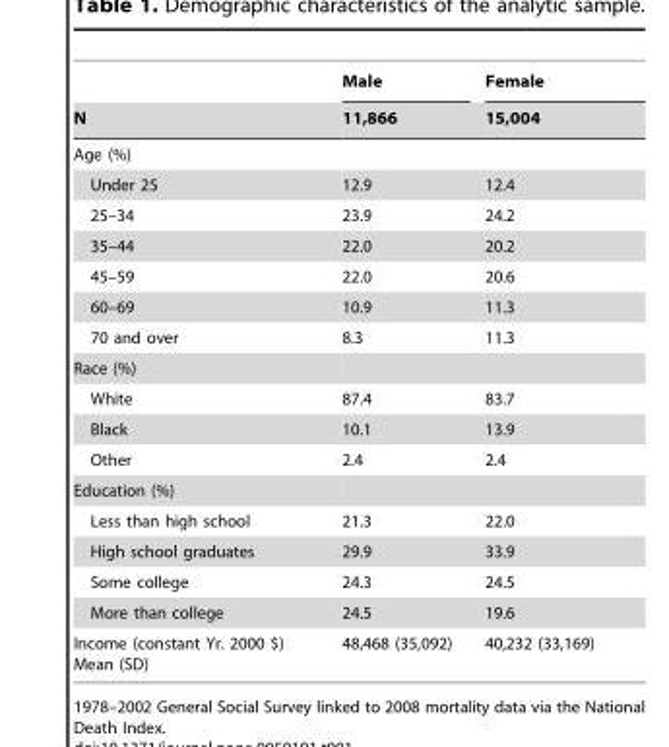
<table><thead><tr><td rowspan="2">N</td><td rowspan="2">Male 11,866</td><td rowspan="2">Female 15,004</td></tr><tr></tr></thead><tbody><tr><td colspan="3">Age (%)</td></tr><tr><td>Under 25</td><td>12.9</td><td>12.4</td></tr><tr><td>25–34</td><td>23.9</td><td>24.2</td></tr><tr><td>35–44</td><td>22.0</td><td>20.2</td></tr><tr><td>45–59</td><td>22.0</td><td>20.6</td></tr><tr><td>60–69</td><td>10.9</td><td>11.3</td></tr><tr><td>70 and over</td><td>8.3</td><td>11.3</td></tr><tr><td colspan="3">Race (%)</td></tr><tr><td>White</td><td>87.4</td><td>83.7</td></tr><tr><td>Black</td><td>10.1</td><td>13.9</td></tr><tr><td>Other</td><td>2.4</td><td>2.4</td></tr><tr><td colspan="3">Education (%)</td></tr><tr><td>Less than high school</td><td>21.3</td><td>22.0</td></tr><tr><td>High school graduates</td><td>29.9</td><td>33.9</td></tr><tr><td>Some college</td><td>24.3</td><td>24.5</td></tr><tr><td>More than college</td><td>24.5</td><td>19.6</td></tr><tr><td>Income (constant Yr. 2000 $) Mean (SD)</td><td>48,468 (35,092)</td><td>40,232 (33,169)</td></tr></tbody></table>